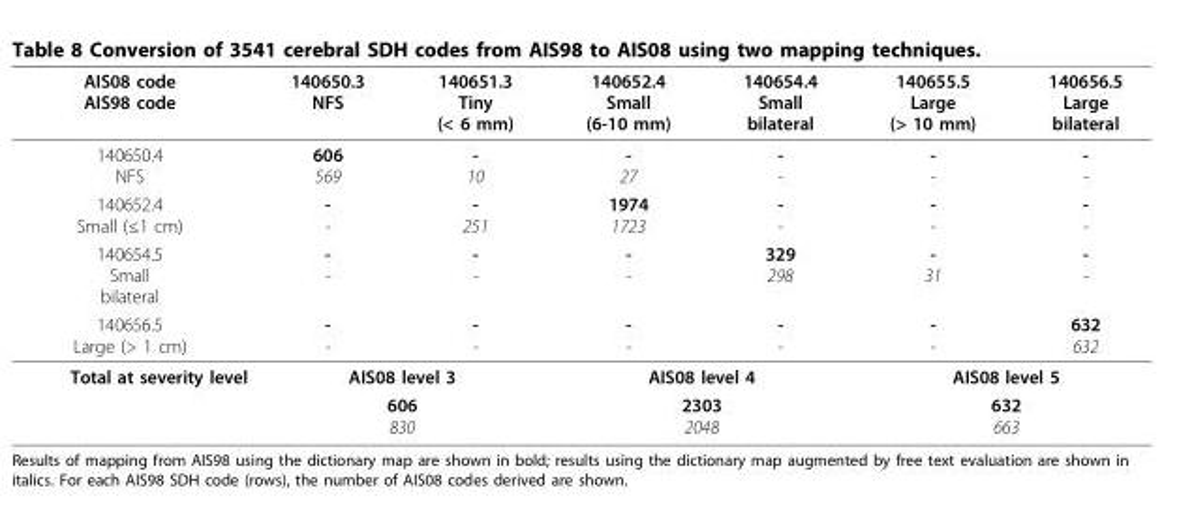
<table><thead><tr><td>AIS08 code AIS98 code</td><td>140650.3 NFS</td><td>140651.3 Tiny (&lt; 6 mm)</td><td>140652.4 Small (6-10 mm)</td><td>140654.4 Small bilateral</td><td>140655.5 Large (&gt; 10 mm)</td><td>140656.5 Large bilateral</td></tr></thead><tbody><tr><td>140650.4 NFS</td><td>606 569</td><td>- 10</td><td>- 27</td><td>- -</td><td>- -</td><td>- -</td></tr><tr><td>140652.4 Small (≤1 cm)</td><td>- -</td><td>- 251</td><td>1974 1723</td><td>- -</td><td>- -</td><td>- -</td></tr><tr><td>140654.5 Small bilateral</td><td>- -</td><td>- -</td><td>- -</td><td>329 298</td><td>- 31</td><td>- -</td></tr><tr><td>140656.5 Large (&gt; 1 cm)</td><td>- -</td><td>- -</td><td>- -</td><td>- -</td><td>- -</td><td>632 632</td></tr><tr><td rowspan="2">Total at severity level</td><td colspan="2">AIS08 level 3</td><td colspan="2">AIS08 level 4</td><td colspan="2">AIS08 level 5</td></tr><tr><td colspan="2">606 830</td><td colspan="2">2303 2048</td><td colspan="2">632 663</td></tr></tbody></table>